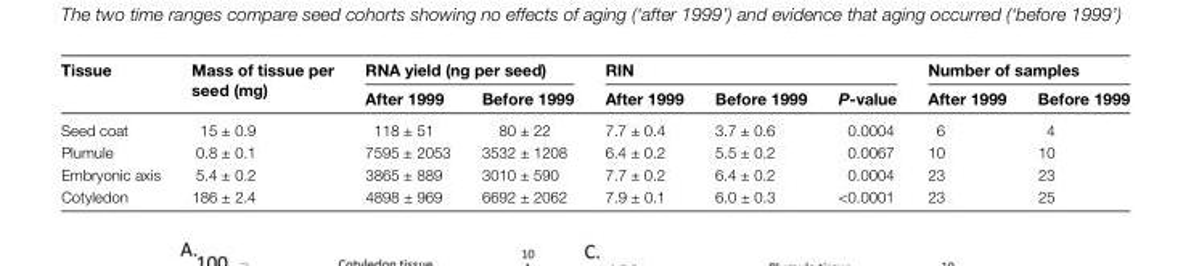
<table><thead><tr><td rowspan="2">Tissue</td><td rowspan="2">Mass of tissue per seed (mg)</td><td colspan="2">RNA yield (ng per seed)</td><td colspan="3">RIN</td><td colspan="2">Number of samples</td></tr><tr><td>After 1999</td><td>Before 1999</td><td>After 1999</td><td>Before 1999</td><td>P-value</td><td>After 1999</td><td>Before 1999</td></tr></thead><tbody><tr><td>Seed coat</td><td>15 ± 0.9</td><td>118 ± 51</td><td>80 ± 22</td><td>7.7 ± 0.4</td><td>3.7 ± 0.6</td><td>0.0004</td><td>6</td><td>4</td></tr><tr><td>Plumule</td><td>0.8 ± 0.1</td><td>7595 ± 2053</td><td>3532 ± 1208</td><td>6.4 ± 0.2</td><td>5.5 ± 0.2</td><td>0.0067</td><td>10</td><td>10</td></tr><tr><td>Embryonic axis</td><td>5.4 ± 0.2</td><td>3865 ± 889</td><td>3010 ± 590</td><td>7.7 ± 0.2</td><td>6.4 ± 0.2</td><td>0.0004</td><td>23</td><td>23</td></tr><tr><td>Cotyledon</td><td>186 ± 2.4</td><td>4898 ± 969</td><td>6692 ± 2062</td><td>7.9 ± 0.1</td><td>6.0 ± 0.3</td><td>&lt;0.0001</td><td>23</td><td>25</td></tr></tbody></table>